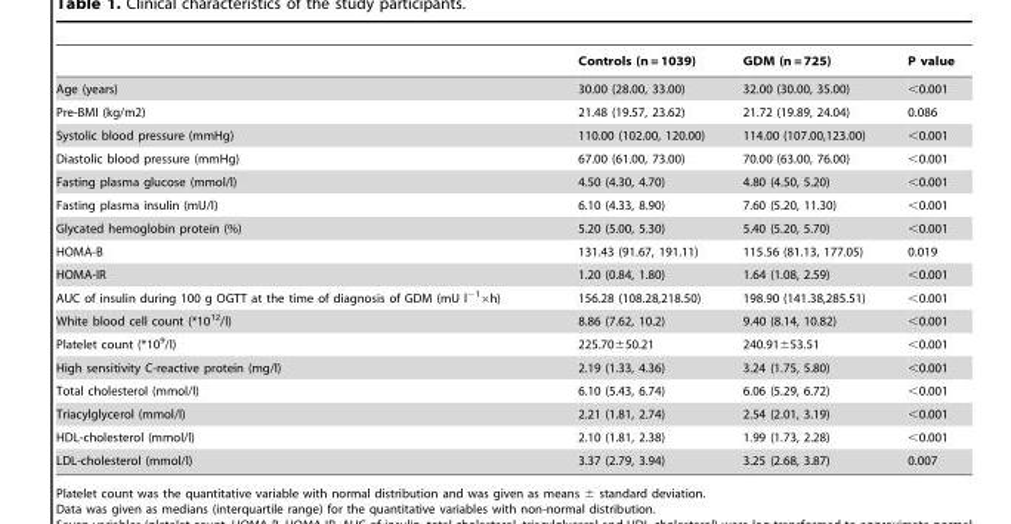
<table><thead><tr><td></td><td>Controls (n = 1039)</td><td>GDM (n = 725)</td><td>P value</td></tr></thead><tbody><tr><td>Age (years)</td><td>30.00 (28.00, 33.00)</td><td>32.00 (30.00, 35.00)</td><td>&lt;0.001</td></tr><tr><td>Pre-BMI (kg/m2)</td><td>21.48 (19.57, 23.62)</td><td>21.72 (19.89, 24.04)</td><td>0.086</td></tr><tr><td>Systolic blood pressure (mmHg)</td><td>110.00 (102.00, 120.00)</td><td>114.00 (107.00,123.00)</td><td>&lt;0.001</td></tr><tr><td>Diastolic blood pressure (mmHg)</td><td>67.00 (61.00, 73.00)</td><td>70.00 (63.00, 76.00)</td><td>&lt;0.001</td></tr><tr><td>Fasting plasma glucose (mmol/l)</td><td>4.50 (4.30, 4.70)</td><td>4.80 (4.50, 5.20)</td><td>&lt;0.001</td></tr><tr><td>Fasting plasma insulin (mU/l)</td><td>6.10 (4.33, 8.90)</td><td>7.60 (5.20, 11.30)</td><td>&lt;0.001</td></tr><tr><td>Glycated hemoglobin protein (%)</td><td>5.20 (5.00, 5.30)</td><td>5.40 (5.20, 5.70)</td><td>&lt;0.001</td></tr><tr><td>HOMA-B</td><td>131.43 (91.67, 191.11)</td><td>115.56 (81.13, 177.05)</td><td>0.019</td></tr><tr><td>HOMA-IR</td><td>1.20 (0.84, 1.80)</td><td>1.64 (1.08, 2.59)</td><td>&lt;0.001</td></tr><tr><td>AUC of insulin during 100 g OGTT at the time of diagnosis of GDM (mU l<sup>−1</sup>×h)</td><td>156.28 (108.28,218.50)</td><td>198.90 (141.38,285.51)</td><td>&lt;0.001</td></tr><tr><td>White blood cell count (*10<sup>12</sup>/l)</td><td>8.86 (7.62, 10.2)</td><td>9.40 (8.14, 10.82)</td><td>&lt;0.001</td></tr><tr><td>Platelet count (*10<sup>9</sup>/l)</td><td>225.70±50.21</td><td>240.91±53.51</td><td>&lt;0.001</td></tr><tr><td>High sensitivity C-reactive protein (mg/l)</td><td>2.19 (1.33, 4.36)</td><td>3.24 (1.75, 5.80)</td><td>&lt;0.001</td></tr><tr><td>Total cholesterol (mmol/l)</td><td>6.10 (5.43, 6.74)</td><td>6.06 (5.29, 6.72)</td><td>&lt;0.001</td></tr><tr><td>Triacylglycerol (mmol/l)</td><td>2.21 (1.81, 2.74)</td><td>2.54 (2.01, 3.19)</td><td>&lt;0.001</td></tr><tr><td>HDL-cholesterol (mmol/l)</td><td>2.10 (1.81, 2.38)</td><td>1.99 (1.73, 2.28)</td><td>&lt;0.001</td></tr><tr><td>LDL-cholesterol (mmol/l)</td><td>3.37 (2.79, 3.94)</td><td>3.25 (2.68, 3.87)</td><td>0.007</td></tr></tbody></table>